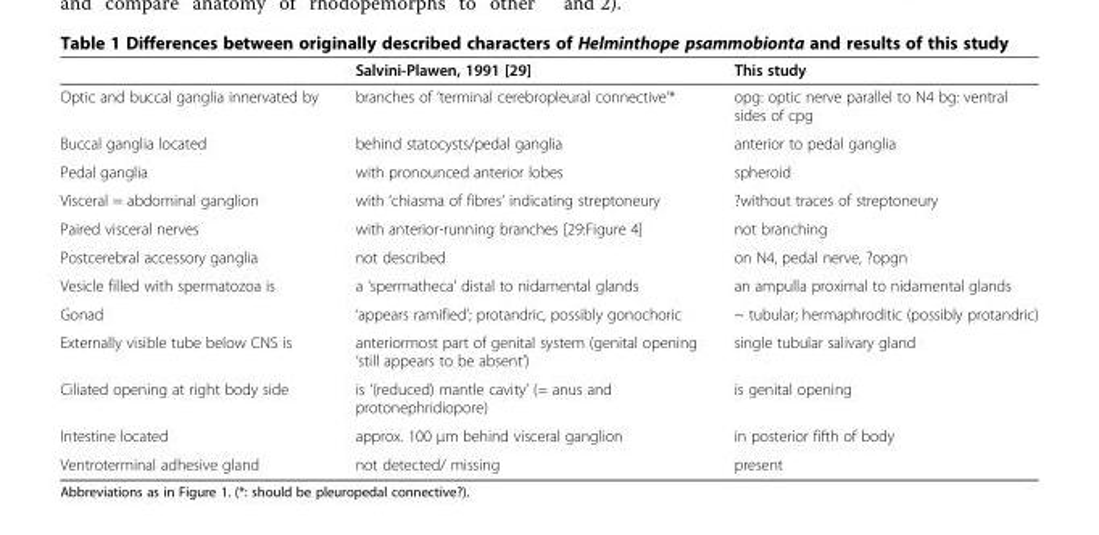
<table><thead><tr><td></td><td>Salvini-Plawen, 1991 [29]</td><td>This study</td></tr></thead><tbody><tr><td>Optic and buccal ganglia innervated by</td><td>branches of ‘terminal cerebropleural connective’*</td><td>opg: optic nerve parallel to N4 bg: ventral sides of cpg</td></tr><tr><td>Buccal ganglia located</td><td>behind statocysts/pedal ganglia</td><td>anterior to pedal ganglia</td></tr><tr><td>Pedal ganglia</td><td>with pronounced anterior lobes</td><td>spheroid</td></tr><tr><td>Visceral = abdominal ganglion</td><td>with ‘chiasma of fibres’ indicating streptoneury</td><td>?without traces of streptoneury</td></tr><tr><td>Paired visceral nerves</td><td>with anterior-running branches [29:Figure 4]</td><td>not branching</td></tr><tr><td>Postcerebral accessory ganglia</td><td>not described</td><td>on N4, pedal nerve, ?opgn</td></tr><tr><td>Vesicle filled with spermatozoa is</td><td>a ‘spermatheca’ distal to nidamental glands</td><td>an ampulla proximal to nidamental glands</td></tr><tr><td>Gonad</td><td>‘appears ramified’; protandric, possibly gonochoric</td><td>~ tubular; hermaphroditic (possibly protandric)</td></tr><tr><td>Externally visible tube below CNS is</td><td>anteriormost part of genital system (genital opening ‘still appears to be absent’)</td><td>single tubular salivary gland</td></tr><tr><td>Ciliated opening at right body side</td><td>is ‘(reduced) mantle cavity’ (= anus and protonephridiopore)</td><td>is genital opening</td></tr><tr><td>Intestine located</td><td>approx. 100 μm behind visceral ganglion</td><td>in posterior fifth of body</td></tr><tr><td>Ventroterminal adhesive gland</td><td>not detected/ missing</td><td>present</td></tr></tbody></table>